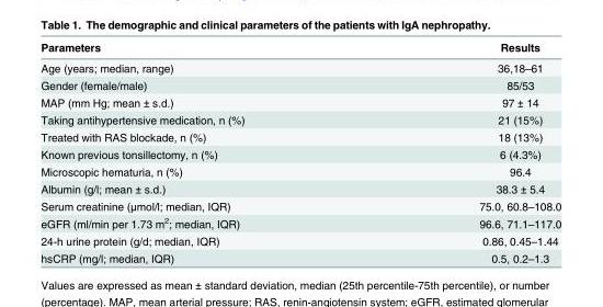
<table><thead><tr><td>Parameters</td><td>Results</td></tr></thead><tbody><tr><td>Age (years; median, range)</td><td>36,18–61</td></tr><tr><td>Gender (female/male)</td><td>85/53</td></tr><tr><td>MAP (mm Hg; mean ± s.d.)</td><td>97 ± 14</td></tr><tr><td>Taking antihypertensive medication, n (%)</td><td>21 (15%)</td></tr><tr><td>Treated with RAS blockade, n (%)</td><td>18 (13%)</td></tr><tr><td>Known previous tonsillectomy, n (%)</td><td>6 (4.3%)</td></tr><tr><td>Microscopic hematuria, n (%)</td><td>96.4</td></tr><tr><td>Albumin (g/l; mean ± s.d.)</td><td>38.3 ± 5.4</td></tr><tr><td>Serum creatinine (μmol/l; median, IQR)</td><td>75.0, 60.8–108.0</td></tr><tr><td>eGFR (ml/min per 1.73 m<sup>2</sup>; median, IQR)</td><td>96.6, 71.1–117.0</td></tr><tr><td>24-h urine protein (g/d; median, IQR)</td><td>0.86, 0.45–1.44</td></tr><tr><td>hsCRP (mg/l; median, IQR)</td><td>0.5, 0.2–1.3</td></tr></tbody></table>